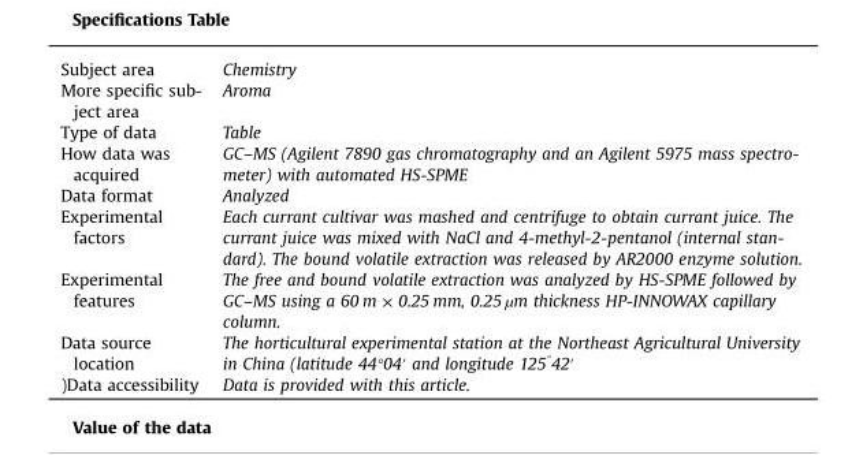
<table><tbody><tr><td>Subject area</td><td>Chemistry</td></tr><tr><td>More specific sub- ject area</td><td>Aroma</td></tr><tr><td>Type of data</td><td>Table</td></tr><tr><td>How data was acquired</td><td>GC–MS (Agilent 7890 gas chromatography and an Agilent 5975 mass spectro- meter) with automated HS-SPME</td></tr><tr><td>Data format</td><td>Analyzed</td></tr><tr><td>Experimental factors</td><td>Each currant cultivar was mashed and centrifuge to obtain currant juice. The currant juice was mixed with NaCl and 4-methyl-2-pentanol (internal stan- dard). The bound volatile extraction was released by AR2000 enzyme solution.</td></tr><tr><td>Experimental features</td><td>The free and bound volatile extraction was analyzed by HS-SPME followed by GC–MS using a 60 m × 0.25 mm, 0.25 µm thickness HP-INNOWAX capillary column.</td></tr><tr><td>Data source location</td><td>The horticultural experimental station at the Northeast Agricultural University in China (latitude 44°04′ and longitude 125<sup>°</sup>42′</td></tr><tr><td>)Data accessibility</td><td>Data is provided with this article.</td></tr></tbody></table>